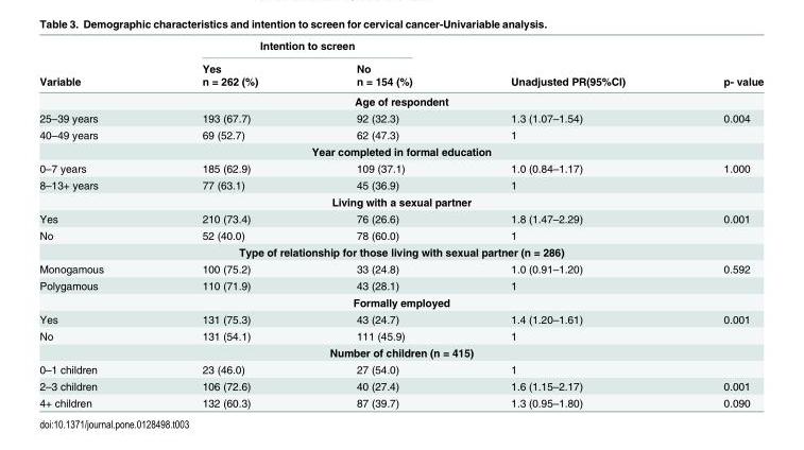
<table><thead><tr><td rowspan="3">Variable</td><td colspan="2">Intention to screen</td><td rowspan="3">Unadjusted PR(95%CI)</td><td rowspan="3">p- value</td></tr><tr><td rowspan="2">Yes n = 262 (%)</td><td rowspan="2">No n = 154 (%)</td></tr><tr></tr></thead><tbody><tr><td colspan="5">Age of respondent</td></tr><tr><td>25–39 years</td><td>193 (67.7)</td><td>92 (32.3)</td><td>1.3 (1.07–1.54)</td><td>0.004</td></tr><tr><td>40–49 years</td><td>69 (52.7)</td><td>62 (47.3)</td><td>1</td><td></td></tr><tr><td colspan="5">Year completed in formal education</td></tr><tr><td>0–7 years</td><td>185 (62.9)</td><td>109 (37.1)</td><td>1.0 (0.84–1.17)</td><td>1.000</td></tr><tr><td>8–13+ years</td><td>77 (63.1)</td><td>45 (36.9)</td><td>1</td><td></td></tr><tr><td colspan="5">Living with a sexual partner</td></tr><tr><td>Yes</td><td>210 (73.4)</td><td>76 (26.6)</td><td>1.8 (1.47–2.29)</td><td>0.001</td></tr><tr><td>No</td><td>52 (40.0)</td><td>78 (60.0)</td><td>1</td><td></td></tr><tr><td colspan="5">Type of relationship for those living with sexual partner (n = 286)</td></tr><tr><td>Monogamous</td><td>100 (75.2)</td><td>33 (24.8)</td><td>1.0 (0.91–1.20)</td><td>0.592</td></tr><tr><td>Polygamous</td><td>110 (71.9)</td><td>43 (28.1)</td><td>1</td><td></td></tr><tr><td colspan="5">Formally employed</td></tr><tr><td>Yes</td><td>131 (75.3)</td><td>43 (24.7)</td><td>1.4 (1.20–1.61)</td><td>0.001</td></tr><tr><td>No</td><td>131 (54.1)</td><td>111 (45.9)</td><td>1</td><td></td></tr><tr><td colspan="5">Number of children (n = 415)</td></tr><tr><td>0–1 children</td><td>23 (46.0)</td><td>27 (54.0)</td><td>1</td><td></td></tr><tr><td>2–3 children</td><td>106 (72.6)</td><td>40 (27.4)</td><td>1.6 (1.15–2.17)</td><td>0.001</td></tr><tr><td>4+ children</td><td>132 (60.3)</td><td>87 (39.7)</td><td>1.3 (0.95–1.80)</td><td>0.090</td></tr></tbody></table>